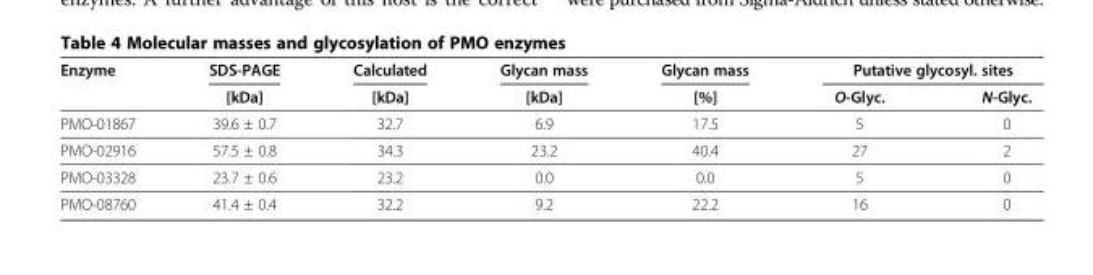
<table><thead><tr><td rowspan="2">Enzyme</td><td rowspan="2">SDS-PAGE [kDa]</td><td rowspan="2">Calculated [kDa]</td><td rowspan="2">Glycan mass [kDa]</td><td rowspan="2">Glycan mass [%]</td><td colspan="2">Putative glycosyl. sites</td></tr><tr><td>O-Glyc.</td><td>N-Glyc.</td></tr></thead><tbody><tr><td>PMO-01867</td><td>39.6 ± 0.7</td><td>32.7</td><td>6.9</td><td>17.5</td><td>5</td><td>0</td></tr><tr><td>PMO-02916</td><td>57.5 ± 0.8</td><td>34.3</td><td>23.2</td><td>40.4</td><td>27</td><td>2</td></tr><tr><td>PMO-03328</td><td>23.7 ± 0.6</td><td>23.2</td><td>0.0</td><td>0.0</td><td>5</td><td>0</td></tr><tr><td>PMO-08760</td><td>41.4 ± 0.4</td><td>32.2</td><td>9.2</td><td>22.2</td><td>16</td><td>0</td></tr></tbody></table>